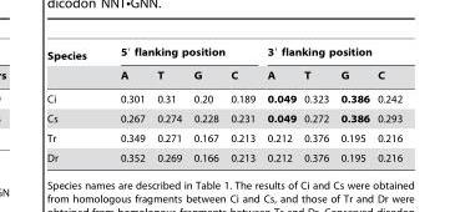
<table><thead><tr><td rowspan="2">Species</td><td colspan="4">5′ flanking position</td><td colspan="4">3′ flanking position</td></tr><tr><td>A</td><td>T</td><td>G</td><td>C</td><td>A</td><td>T</td><td>G</td><td>C</td></tr></thead><tbody><tr><td>Ci</td><td>0.301</td><td>0.31</td><td>0.20</td><td>0.189</td><td>0.049</td><td>0.323</td><td>0.386</td><td>0.242</td></tr><tr><td>Cs</td><td>0.267</td><td>0.274</td><td>0.228</td><td>0.231</td><td>0.049</td><td>0.272</td><td>0.386</td><td>0.293</td></tr><tr><td>Tr</td><td>0.349</td><td>0.271</td><td>0.167</td><td>0.213</td><td>0.212</td><td>0.376</td><td>0.195</td><td>0.216</td></tr><tr><td>Dr</td><td>0.352</td><td>0.269</td><td>0.166</td><td>0.213</td><td>0.212</td><td>0.376</td><td>0.195</td><td>0.216</td></tr></tbody></table>